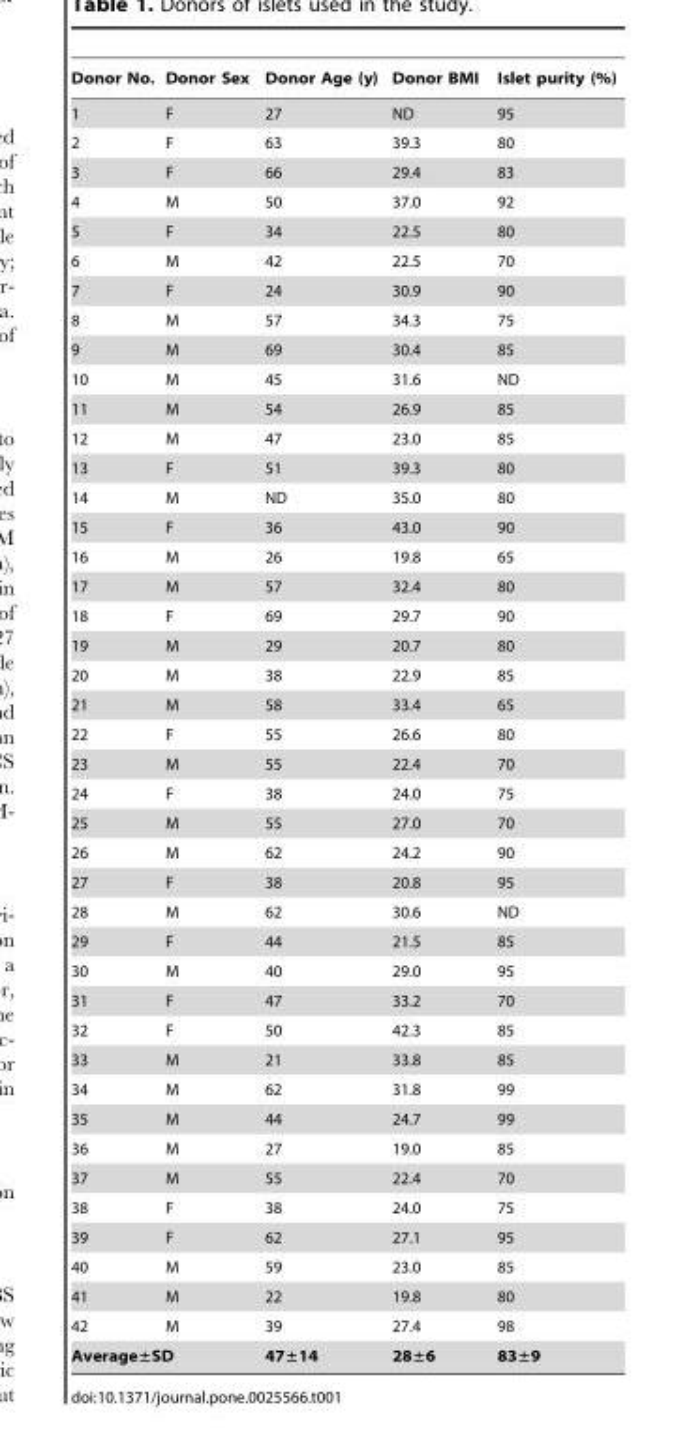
<table><thead><tr><td>Donor No.</td><td>Donor Sex</td><td>Donor Age (y)</td><td>Donor BMI</td><td>Islet purity (%)</td></tr></thead><tbody><tr><td>1</td><td>F</td><td>27</td><td>ND</td><td>95</td></tr><tr><td>2</td><td>F</td><td>63</td><td>39.3</td><td>80</td></tr><tr><td>3</td><td>F</td><td>66</td><td>29.4</td><td>83</td></tr><tr><td>4</td><td>M</td><td>50</td><td>37.0</td><td>92</td></tr><tr><td>5</td><td>F</td><td>34</td><td>22.5</td><td>80</td></tr><tr><td>6</td><td>M</td><td>42</td><td>22.5</td><td>70</td></tr><tr><td>7</td><td>F</td><td>24</td><td>30.9</td><td>90</td></tr><tr><td>8</td><td>M</td><td>57</td><td>34.3</td><td>75</td></tr><tr><td>9</td><td>M</td><td>69</td><td>30.4</td><td>85</td></tr><tr><td>10</td><td>M</td><td>45</td><td>31.6</td><td>ND</td></tr><tr><td>11</td><td>M</td><td>54</td><td>26.9</td><td>85</td></tr><tr><td>12</td><td>M</td><td>47</td><td>23.0</td><td>85</td></tr><tr><td>13</td><td>F</td><td>51</td><td>39.3</td><td>80</td></tr><tr><td>14</td><td>M</td><td>ND</td><td>35.0</td><td>80</td></tr><tr><td>15</td><td>F</td><td>36</td><td>43.0</td><td>90</td></tr><tr><td>16</td><td>M</td><td>26</td><td>19.8</td><td>65</td></tr><tr><td>17</td><td>M</td><td>57</td><td>32.4</td><td>80</td></tr><tr><td>18</td><td>F</td><td>69</td><td>29.7</td><td>90</td></tr><tr><td>19</td><td>M</td><td>29</td><td>20.7</td><td>80</td></tr><tr><td>20</td><td>M</td><td>38</td><td>22.9</td><td>85</td></tr><tr><td>21</td><td>M</td><td>58</td><td>33.4</td><td>65</td></tr><tr><td>22</td><td>F</td><td>55</td><td>26.6</td><td>80</td></tr><tr><td>23</td><td>M</td><td>55</td><td>22.4</td><td>70</td></tr><tr><td>24</td><td>F</td><td>38</td><td>24.0</td><td>75</td></tr><tr><td>25</td><td>M</td><td>55</td><td>27.0</td><td>70</td></tr><tr><td>26</td><td>M</td><td>62</td><td>24.2</td><td>90</td></tr><tr><td>27</td><td>F</td><td>38</td><td>20.8</td><td>95</td></tr><tr><td>28</td><td>M</td><td>62</td><td>30.6</td><td>ND</td></tr><tr><td>29</td><td>F</td><td>44</td><td>21.5</td><td>85</td></tr><tr><td>30</td><td>M</td><td>40</td><td>29.0</td><td>95</td></tr><tr><td>31</td><td>F</td><td>47</td><td>33.2</td><td>70</td></tr><tr><td>32</td><td>F</td><td>50</td><td>42.3</td><td>85</td></tr><tr><td>33</td><td>M</td><td>21</td><td>33.8</td><td>85</td></tr><tr><td>34</td><td>M</td><td>62</td><td>31.8</td><td>99</td></tr><tr><td>35</td><td>M</td><td>44</td><td>24.7</td><td>99</td></tr><tr><td>36</td><td>M</td><td>27</td><td>19.0</td><td>85</td></tr><tr><td>37</td><td>M</td><td>55</td><td>22.4</td><td>70</td></tr><tr><td>38</td><td>F</td><td>38</td><td>24.0</td><td>75</td></tr><tr><td>39</td><td>F</td><td>62</td><td>27.1</td><td>95</td></tr><tr><td>40</td><td>M</td><td>59</td><td>23.0</td><td>85</td></tr><tr><td>41</td><td>M</td><td>22</td><td>19.8</td><td>80</td></tr><tr><td>42</td><td>M</td><td>39</td><td>27.4</td><td>98</td></tr><tr><td colspan="2">Average±SD</td><td>47±14</td><td>28±6</td><td>83±9</td></tr></tbody></table>